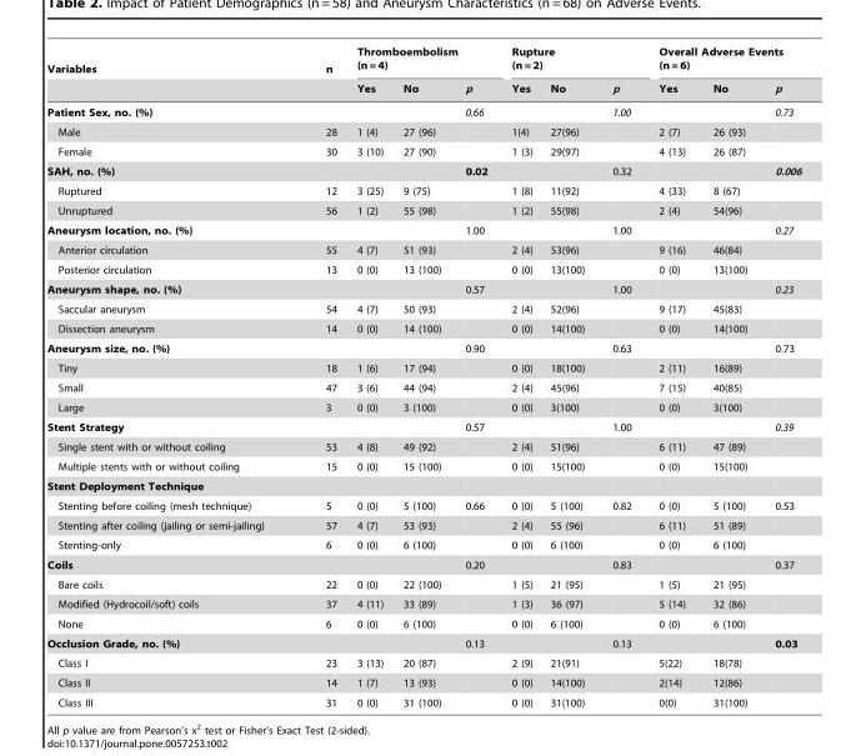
<table><thead><tr><td rowspan="2">Variables</td><td rowspan="2">n</td><td colspan="3">Thromboembolism (n = 4)</td><td colspan="3">Rupture (n = 2)</td><td colspan="3">Overall Adverse Events (n = 6)</td></tr><tr><td>Yes</td><td>No</td><td>p</td><td>Yes</td><td>No</td><td>p</td><td>Yes</td><td>No</td><td>p</td></tr></thead><tbody><tr><td>Patient Sex, no. (%)</td><td></td><td></td><td></td><td>0.66</td><td></td><td></td><td>1.00</td><td></td><td></td><td>0.73</td></tr><tr><td>Male</td><td>28</td><td>1 (4)</td><td>27 (96)</td><td></td><td>1(4)</td><td>27(96)</td><td></td><td>2 (7)</td><td>26 (93)</td><td></td></tr><tr><td>Female</td><td>30</td><td>3 (10)</td><td>27 (90)</td><td></td><td>1 (3)</td><td>29(97)</td><td></td><td>4 (13)</td><td>26 (87)</td><td></td></tr><tr><td>SAH, no. (%)</td><td></td><td></td><td></td><td>0.02</td><td></td><td></td><td>0.32</td><td></td><td></td><td>0.006</td></tr><tr><td>Ruptured</td><td>12</td><td>3 (25)</td><td>9 (75)</td><td></td><td>1 (8)</td><td>11(92)</td><td></td><td>4 (33)</td><td>8 (67)</td><td></td></tr><tr><td>Unruptured</td><td>56</td><td>1 (2)</td><td>55 (98)</td><td></td><td>1 (2)</td><td>55(98)</td><td></td><td>2 (4)</td><td>54(96)</td><td></td></tr><tr><td>Aneurysm location, no. (%)</td><td></td><td></td><td></td><td>1.00</td><td></td><td></td><td>1.00</td><td></td><td></td><td>0.27</td></tr><tr><td>Anterior circulation</td><td>55</td><td>4 (7)</td><td>51 (93)</td><td></td><td>2 (4)</td><td>53(96)</td><td></td><td>9 (16)</td><td>46(84)</td><td></td></tr><tr><td>Posterior circulation</td><td>13</td><td>0 (0)</td><td>13 (100)</td><td></td><td>0 (0)</td><td>13(100)</td><td></td><td>0 (0)</td><td>13(100)</td><td></td></tr><tr><td>Aneurysm shape, no. (%)</td><td></td><td></td><td></td><td>0.57</td><td></td><td></td><td>1.00</td><td></td><td></td><td>0.23</td></tr><tr><td>Saccular aneurysm</td><td>54</td><td>4 (7)</td><td>50 (93)</td><td></td><td>2 (4)</td><td>52(96)</td><td></td><td>9 (17)</td><td>45(83)</td><td></td></tr><tr><td>Dissection aneurysm</td><td>14</td><td>0 (0)</td><td>14 (100)</td><td></td><td>0 (0)</td><td>14(100)</td><td></td><td>0 (0)</td><td>14(100)</td><td></td></tr><tr><td>Aneurysm size, no. (%)</td><td></td><td></td><td></td><td>0.90</td><td></td><td></td><td>0.63</td><td></td><td></td><td>0.73</td></tr><tr><td>Tiny</td><td>18</td><td>1 (6)</td><td>17 (94)</td><td></td><td>0 (0)</td><td>18(100)</td><td></td><td>2 (11)</td><td>16(89)</td><td></td></tr><tr><td>Small</td><td>47</td><td>3 (6)</td><td>44 (94)</td><td></td><td>2 (4)</td><td>45(96)</td><td></td><td>7 (15)</td><td>40(85)</td><td></td></tr><tr><td>Large</td><td>3</td><td>0 (0)</td><td>3 (100)</td><td></td><td>0 (0)</td><td>3(100)</td><td></td><td>0 (0)</td><td>3(100)</td><td></td></tr><tr><td>Stent Strategy</td><td></td><td></td><td></td><td>0.57</td><td></td><td></td><td>1.00</td><td></td><td></td><td>0.39</td></tr><tr><td>Single stent with or without coiling</td><td>53</td><td>4 (8)</td><td>49 (92)</td><td></td><td>2 (4)</td><td>51(96)</td><td></td><td>6 (11)</td><td>47 (89)</td><td></td></tr><tr><td>Multiple stents with or without coiling</td><td>15</td><td>0 (0)</td><td>15 (100)</td><td></td><td>0 (0)</td><td>15(100)</td><td></td><td>0 (0)</td><td>15(100)</td><td></td></tr><tr><td colspan="11">Stent Deployment Technique</td></tr><tr><td>Stenting before coiling (mesh technique)</td><td>5</td><td>0 (0)</td><td>5 (100)</td><td>0.66</td><td>0 (0)</td><td>5 (100)</td><td>0.82</td><td>0 (0)</td><td>5 (100)</td><td>0.53</td></tr><tr><td>Stenting after coiling (jailing or semi-jailing)</td><td>57</td><td>4 (7)</td><td>53 (93)</td><td></td><td>2 (4)</td><td>55 (96)</td><td></td><td>6 (11)</td><td>51 (89)</td><td></td></tr><tr><td>Stenting-only</td><td>6</td><td>0 (0)</td><td>6 (100)</td><td></td><td>0 (0)</td><td>6 (100)</td><td></td><td>0 (0)</td><td>6 (100)</td><td></td></tr><tr><td>Coils</td><td></td><td></td><td></td><td>0.20</td><td></td><td></td><td>0.83</td><td></td><td></td><td>0.37</td></tr><tr><td>Bare coils</td><td>22</td><td>0 (0)</td><td>22 (100)</td><td></td><td>1 (5)</td><td>21 (95)</td><td></td><td>1 (5)</td><td>21 (95)</td><td></td></tr><tr><td>Modified (Hydrocoil/soft) coils</td><td>37</td><td>4 (11)</td><td>33 (89)</td><td></td><td>1 (3)</td><td>36 (97)</td><td></td><td>5 (14)</td><td>32 (86)</td><td></td></tr><tr><td>None</td><td>6</td><td>0 (0)</td><td>6 (100)</td><td></td><td>0 (0)</td><td>6 (100)</td><td></td><td>0 (0)</td><td>6 (100)</td><td></td></tr><tr><td>Occlusion Grade, no. (%)</td><td></td><td></td><td></td><td>0.13</td><td></td><td></td><td>0.13</td><td></td><td></td><td>0.03</td></tr><tr><td>Class I</td><td>23</td><td>3 (13)</td><td>20 (87)</td><td></td><td>2 (9)</td><td>21(91)</td><td></td><td>5(22)</td><td>18(78)</td><td></td></tr><tr><td>Class II</td><td>14</td><td>1 (7)</td><td>13 (93)</td><td></td><td>0 (0)</td><td>14(100)</td><td></td><td>2(14)</td><td>12(86)</td><td></td></tr><tr><td>Class III</td><td>31</td><td>0 (0)</td><td>31 (100)</td><td></td><td>0 (0)</td><td>31(100)</td><td></td><td>0(0)</td><td>31(100)</td><td></td></tr></tbody></table>